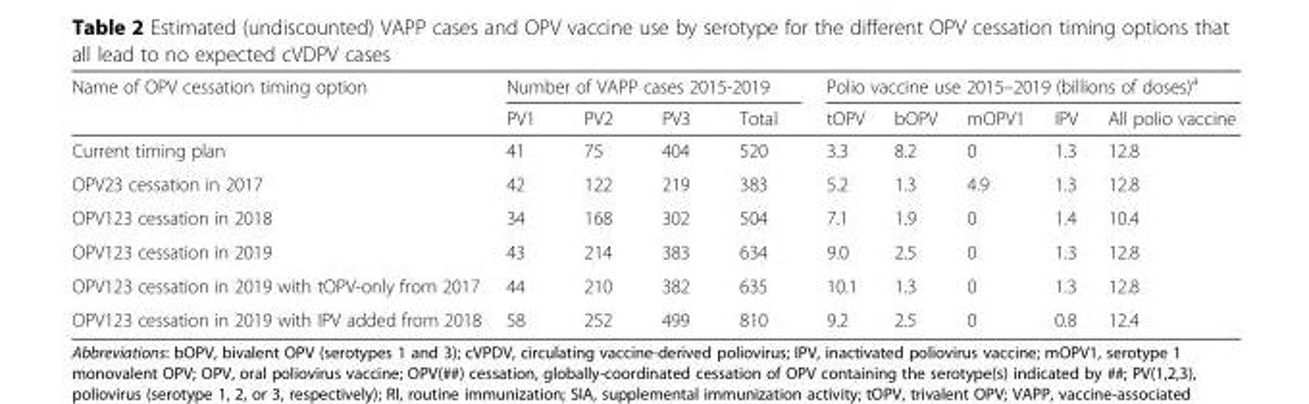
<table><thead><tr><td rowspan="2">Name of OPV cessation timing option</td><td colspan="4">Number of VAPP cases 2015-2019</td><td colspan="5">Polio vaccine use 2015–2019 (billions of doses)<sup>a</sup></td></tr><tr><td>PV1</td><td>PV2</td><td>PV3</td><td>Total</td><td>tOPV</td><td>bOPV</td><td>mOPV1</td><td>IPV</td><td>All polio vaccine</td></tr></thead><tbody><tr><td>Current timing plan</td><td>41</td><td>75</td><td>404</td><td>520</td><td>3.3</td><td>8.2</td><td>0</td><td>1.3</td><td>12.8</td></tr><tr><td>OPV23 cessation in 2017</td><td>42</td><td>122</td><td>219</td><td>383</td><td>5.2</td><td>1.3</td><td>4.9</td><td>1.3</td><td>12.8</td></tr><tr><td>OPV123 cessation in 2018</td><td>34</td><td>168</td><td>302</td><td>504</td><td>7.1</td><td>1.9</td><td>0</td><td>1.4</td><td>10.4</td></tr><tr><td>OPV123 cessation in 2019</td><td>43</td><td>214</td><td>383</td><td>634</td><td>9.0</td><td>2.5</td><td>0</td><td>1.3</td><td>12.8</td></tr><tr><td>OPV123 cessation in 2019 with tOPV-only from 2017</td><td>44</td><td>210</td><td>382</td><td>635</td><td>10.1</td><td>1.3</td><td>0</td><td>1.3</td><td>12.8</td></tr><tr><td>OPV123 cessation in 2019 with IPV added from 2018</td><td>58</td><td>252</td><td>499</td><td>810</td><td>9.2</td><td>2.5</td><td>0</td><td>0.8</td><td>12.4</td></tr></tbody></table>